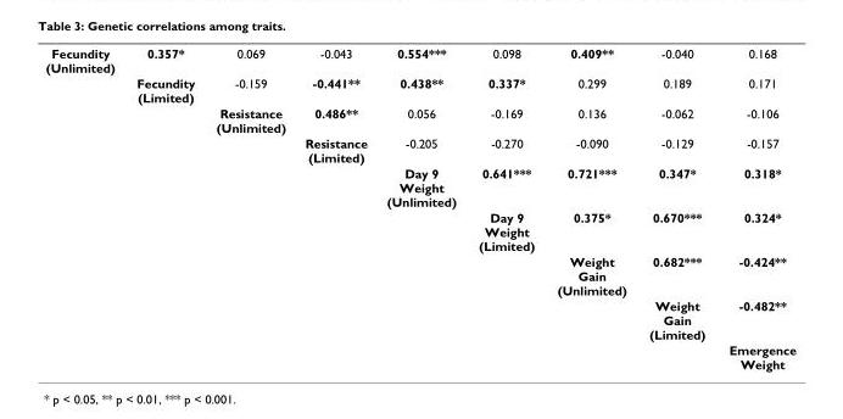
<table><tbody><tr><td rowspan="9">Fecundity (Unlimited)</td><td>0.357*</td><td>0.069</td><td>-0.043</td><td>0.554***</td><td>0.098</td><td>0.409**</td><td>-0.040</td><td>0.168</td></tr><tr><td>Fecundity (Limited)</td><td>-0.159</td><td>-0.441**</td><td>0.438**</td><td>0.337*</td><td>0.299</td><td>0.189</td><td>0.171</td></tr><tr><td></td><td>Resistance (Unlimited)</td><td>0.486**</td><td>0.056</td><td>-0.169</td><td>0.136</td><td>-0.062</td><td>-0.106</td></tr><tr><td></td><td></td><td>Resistance (Limited)</td><td>-0.205</td><td>-0.270</td><td>-0.090</td><td>-0.129</td><td>-0.157</td></tr><tr><td></td><td></td><td></td><td>Day 9 Weight (Unlimited)</td><td>0.641***</td><td>0.721***</td><td>0.347*</td><td>0.318*</td></tr><tr><td></td><td></td><td></td><td></td><td>Day 9 Weight (Limited)</td><td>0.375*</td><td>0.670***</td><td>0.324*</td></tr><tr><td></td><td></td><td></td><td></td><td></td><td>Weight Gain (Unlimited)</td><td>0.682***</td><td>-0.424**</td></tr><tr><td></td><td></td><td></td><td></td><td></td><td></td><td>Weight Gain (Limited)</td><td>-0.482**</td></tr><tr><td></td><td></td><td></td><td></td><td></td><td></td><td></td><td>Emergence Weight</td></tr></tbody></table>